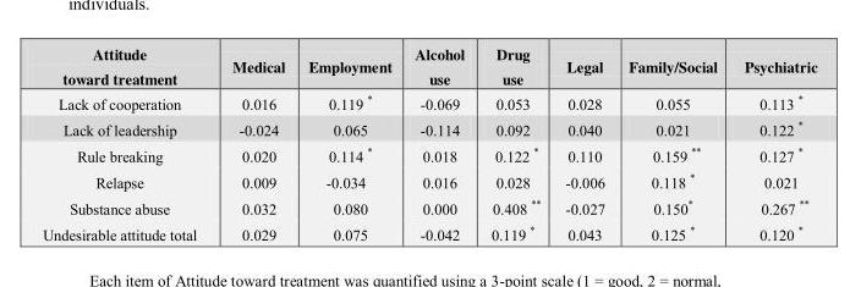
<table><thead><tr><td>Attitude toward treatment</td><td>Medical</td><td>Employment</td><td>Alcohol use</td><td>Drug use</td><td>Legal</td><td>Family/Social</td><td>Psychiatric</td></tr></thead><tbody><tr><td>Lack of cooperation</td><td>0.016</td><td>0.119 *</td><td>-0.069</td><td>0.053</td><td>0.028</td><td>0.055</td><td>0.113 *</td></tr><tr><td>Lack of leadership</td><td>-0.024</td><td>0.065</td><td>-0.114</td><td>0.092</td><td>0.040</td><td>0.021</td><td>0.122 *</td></tr><tr><td>Rule breaking</td><td>0.020</td><td>0.114 *</td><td>0.018</td><td>0.122 *</td><td>0.110</td><td>0.159 **</td><td>0.127 *</td></tr><tr><td>Relapse</td><td>0.009</td><td>-0.034</td><td>0.016</td><td>0.028</td><td>-0.006</td><td>0.118 *</td><td>0.021</td></tr><tr><td>Substance abuse</td><td>0.032</td><td>0.080</td><td>0.000</td><td>0.408 **</td><td>-0.027</td><td>0.150*</td><td>0.267 **</td></tr><tr><td>Undesirable attitude total</td><td>0.029</td><td>0.075</td><td>-0.042</td><td>0.119 *</td><td>0.043</td><td>0.125 *</td><td>0.120 *</td></tr></tbody></table>